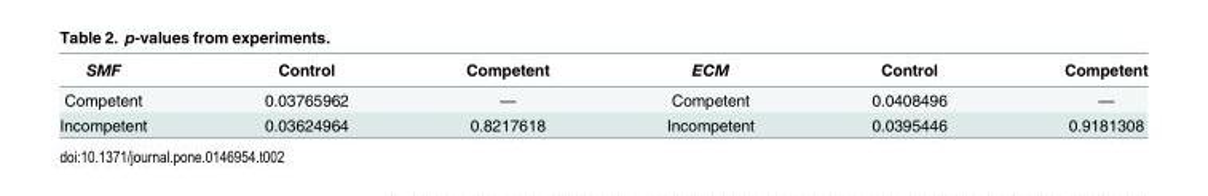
<table><thead><tr><td>SMF</td><td>Control</td><td>Competent</td><td>ECM</td><td>Control</td><td>Competent</td></tr></thead><tbody><tr><td>Competent</td><td>0.03765962</td><td>—</td><td>Competent</td><td>0.0408496</td><td>—</td></tr><tr><td>Incompetent</td><td>0.03624964</td><td>0.8217618</td><td>Incompetent</td><td>0.0395446</td><td>0.9181308</td></tr></tbody></table>